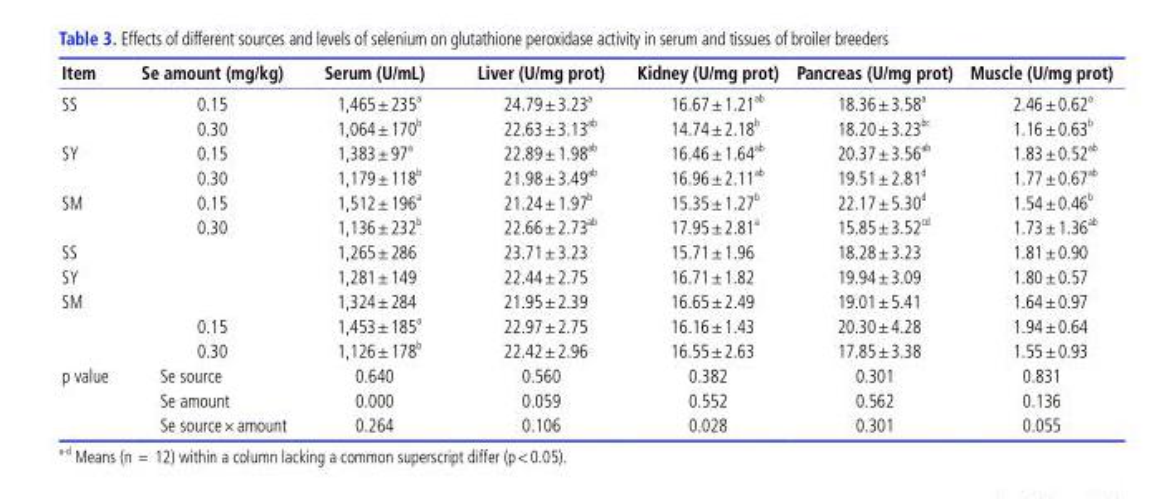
<table><thead><tr><td>Item</td><td>Se amount (mg/kg)</td><td>Serum (U/mL)</td><td>Liver (U/mg prot)</td><td>Kidney (U/mg prot)</td><td>Pancreas (U/mg prot)</td><td>Muscle (U/mg prot)</td></tr></thead><tbody><tr><td rowspan="2">SS</td><td>0.15</td><td>1,465±235 <sup>a</sup></td><td>24.79±3.23 <sup>a</sup></td><td>16.67±1.21 <sup>ab</sup></td><td>18.36±3.58 <sup>a</sup></td><td>2.46±0.62 <sup>a</sup></td></tr><tr><td>0.30</td><td>1,064±170 <sup>b</sup></td><td>22.63±3.13 <sup>ab</sup></td><td>14.74±2.18 <sup>b</sup></td><td>18.20±3.23 <sup>bc</sup></td><td>1.16±0.63 <sup>b</sup></td></tr><tr><td rowspan="2">SY</td><td>0.15</td><td>1,383±97 <sup>a</sup></td><td>22.89±1.98 <sup>ab</sup></td><td>16.46±1.64 <sup>ab</sup></td><td>20.37±3.56 <sup>ab</sup></td><td>1.83±0.52 <sup>ab</sup></td></tr><tr><td>0.30</td><td>1,179±118 <sup>b</sup></td><td>21.98±3.49 <sup>ab</sup></td><td>16.96±2.11 <sup>ab</sup></td><td>19.51±2.81 <sup>d</sup></td><td>1.77±0.67 <sup>ab</sup></td></tr><tr><td rowspan="2">SM</td><td>0.15</td><td>1,512±196 <sup>a</sup></td><td>21.24±1.97 <sup>b</sup></td><td>15.35±1.27 <sup>b</sup></td><td>22.17±5.30 <sup>d</sup></td><td>1.54±0.46 <sup>b</sup></td></tr><tr><td>0.30</td><td>1,136±232 <sup>b</sup></td><td>22.66±2.73 <sup>ab</sup></td><td>17.95±2.81 <sup>a</sup></td><td>15.85±3.52 <sup>cd</sup></td><td>1.73±1.36 <sup>ab</sup></td></tr><tr><td>SS</td><td></td><td>1,265±286</td><td>23.71±3.23</td><td>15.71±1.96</td><td>18.28±3.23</td><td>1.81±0.90</td></tr><tr><td>SY</td><td></td><td>1,281±149</td><td>22.44±2.75</td><td>16.71±1.82</td><td>19.94±3.09</td><td>1.80±0.57</td></tr><tr><td rowspan="3">SM</td><td></td><td>1,324±284</td><td>21.95±2.39</td><td>16.65±2.49</td><td>19.01±5.41</td><td>1.64±0.97</td></tr><tr><td>0.15</td><td>1,453±185 <sup>a</sup></td><td>22.97±2.75</td><td>16.16±1.43</td><td>20.30±4.28</td><td>1.94±0.64</td></tr><tr><td>0.30</td><td>1,126±178 <sup>b</sup></td><td>22.42±2.96</td><td>16.55±2.63</td><td>17.85±3.38</td><td>1.55±0.93</td></tr><tr><td rowspan="3">p value</td><td>Se source</td><td>0.640</td><td>0.560</td><td>0.382</td><td>0.301</td><td>0.831</td></tr><tr><td>Se amount</td><td>0.000</td><td>0.059</td><td>0.552</td><td>0.562</td><td>0.136</td></tr><tr><td>Se source×amount</td><td>0.264</td><td>0.106</td><td>0.028</td><td>0.301</td><td>0.055</td></tr></tbody></table>